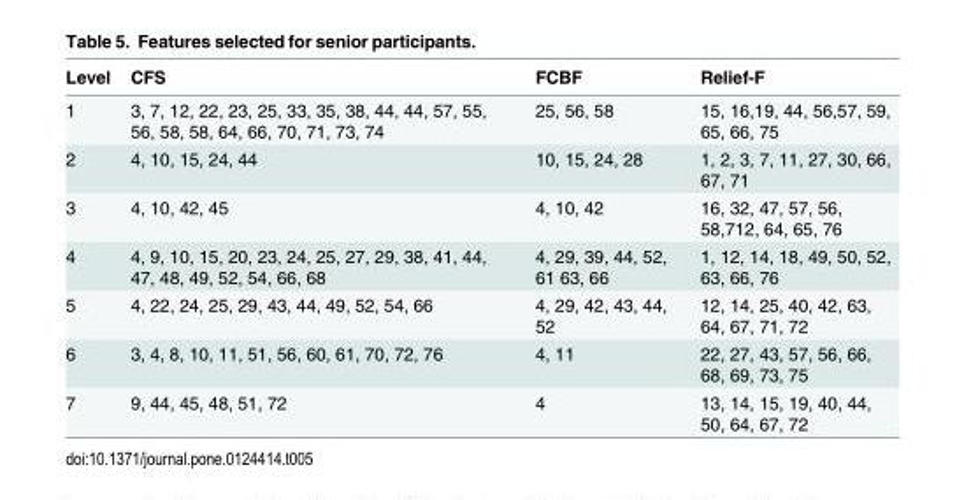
<table><thead><tr><td>Level</td><td>CFS</td><td>FCBF</td><td>Relief-F</td></tr></thead><tbody><tr><td>1</td><td>3, 7, 12, 22, 23, 25, 33, 35, 38, 44, 44, 57, 55, 56, 58, 58, 64, 66, 70, 71, 73, 74</td><td>25, 56, 58</td><td>15, 16,19, 44, 56,57, 59, 65, 66, 75</td></tr><tr><td>2</td><td>4, 10, 15, 24, 44</td><td>10, 15, 24, 28</td><td>1, 2, 3, 7, 11, 27, 30, 66, 67, 71</td></tr><tr><td>3</td><td>4, 10, 42, 45</td><td>4, 10, 42</td><td>16, 32, 47, 57, 56, 58,712, 64, 65, 76</td></tr><tr><td>4</td><td>4, 9, 10, 15, 20, 23, 24, 25, 27, 29, 38, 41, 44, 47, 48, 49, 52, 54, 66, 68</td><td>4, 29, 39, 44, 52, 61 63, 66</td><td>1, 12, 14, 18, 49, 50, 52, 63, 66, 76</td></tr><tr><td>5</td><td>4, 22, 24, 25, 29, 43, 44, 49, 52, 54, 66</td><td>4, 29, 42, 43, 44, 52</td><td>12, 14, 25, 40, 42, 63, 64, 67, 71, 72</td></tr><tr><td>6</td><td>3, 4, 8, 10, 11, 51, 56, 60, 61, 70, 72, 76</td><td>4, 11</td><td>22, 27, 43, 57, 56, 66, 68, 69, 73, 75</td></tr><tr><td>7</td><td>9, 44, 45, 48, 51, 72</td><td>4</td><td>13, 14, 15, 19, 40, 44, 50, 64, 67, 72</td></tr></tbody></table>